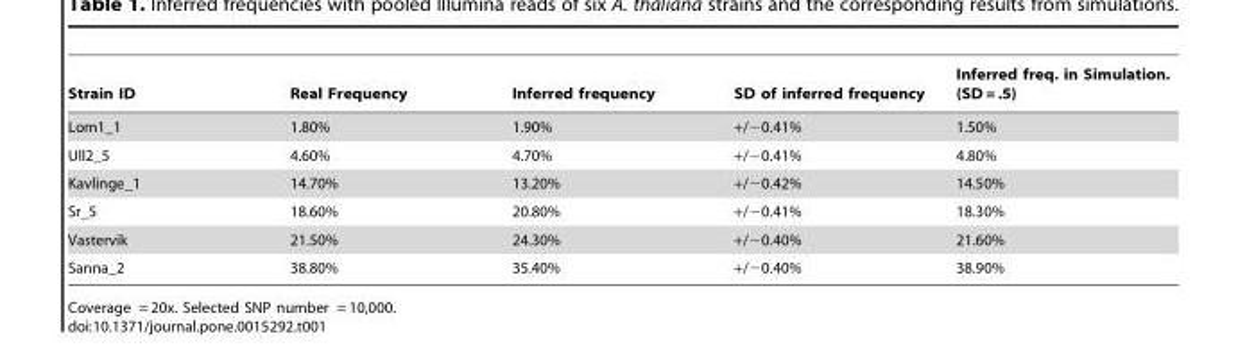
<table><thead><tr><td>Strain ID</td><td>Real Frequency</td><td>Inferred frequency</td><td>SD of inferred frequency</td><td>Inferred freq. in Simulation. (SD = .5)</td></tr></thead><tbody><tr><td>Lom1_1</td><td>1.80%</td><td>1.90%</td><td>+/−0.41%</td><td>1.50%</td></tr><tr><td>Ull2_5</td><td>4.60%</td><td>4.70%</td><td>+/−0.41%</td><td>4.80%</td></tr><tr><td>Kavlinge_1</td><td>14.70%</td><td>13.20%</td><td>+/−0.42%</td><td>14.50%</td></tr><tr><td>Sr_5</td><td>18.60%</td><td>20.80%</td><td>+/−0.41%</td><td>18.30%</td></tr><tr><td>Vastervik</td><td>21.50%</td><td>24.30%</td><td>+/−0.40%</td><td>21.60%</td></tr><tr><td>Sanna_2</td><td>38.80%</td><td>35.40%</td><td>+/−0.40%</td><td>38.90%</td></tr></tbody></table>